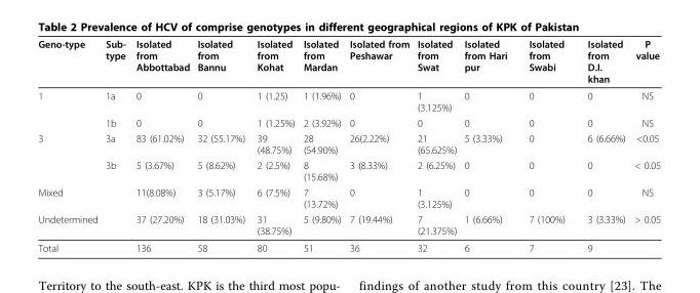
<table><thead><tr><td>Geno-type</td><td>Sub- type</td><td>Isolated from Abbottabad</td><td>Isolated from Bannu</td><td>Isolated from Kohat</td><td>Isolated from Mardan</td><td>Isolated from Peshawar</td><td>Isolated from Swat</td><td>Isolated from Hari pur</td><td>Isolated from Swabi</td><td>Isolated from D.I. khan</td><td>P value</td></tr></thead><tbody><tr><td rowspan="2">1</td><td>1a</td><td>0</td><td>0</td><td>1 (1.25)</td><td>1 (1.96%)</td><td>0</td><td>1 (3.125%)</td><td>0</td><td>0</td><td>0</td><td>NS</td></tr><tr><td>1b</td><td>0</td><td>0</td><td>1 (1.25%)</td><td>2 (3.92%)</td><td>0</td><td>0</td><td>0</td><td>0</td><td>0</td><td>NS</td></tr><tr><td rowspan="2">3</td><td>3a</td><td>83 (61.02%)</td><td>32 (55.17%)</td><td>39 (48.75%)</td><td>28 (54.90%)</td><td>26(2.22%)</td><td>21 (65.625%)</td><td>5 (3.33%)</td><td>0</td><td>6 (6.66%)</td><td>&lt;0.05</td></tr><tr><td>3b</td><td>5 (3.67%)</td><td>5 (8.62%)</td><td>2 (2.5%)</td><td>8 (15.68%)</td><td>3 (8.33%)</td><td>2 (6.25%)</td><td>0</td><td>0</td><td>0</td><td>&lt; 0.05</td></tr><tr><td>Mixed</td><td></td><td>11(8.08%)</td><td>3 (5.17%)</td><td>6 (7.5%)</td><td>7 (13.72%)</td><td>0</td><td>1 (3.125%)</td><td>0</td><td>0</td><td>0</td><td>NS</td></tr><tr><td>Undetermined</td><td></td><td>37 (27.20%)</td><td>18 (31.03%)</td><td>31 (38.75%)</td><td>5 (9.80%)</td><td>7 (19.44%)</td><td>7 (21.375%)</td><td>1 (6.66%)</td><td>7 (100%)</td><td>3 (3.33%)</td><td>&gt; 0.05</td></tr><tr><td>Total</td><td></td><td>136</td><td>58</td><td>80</td><td>51</td><td>36</td><td>32</td><td>6</td><td>7</td><td>9</td><td></td></tr></tbody></table>